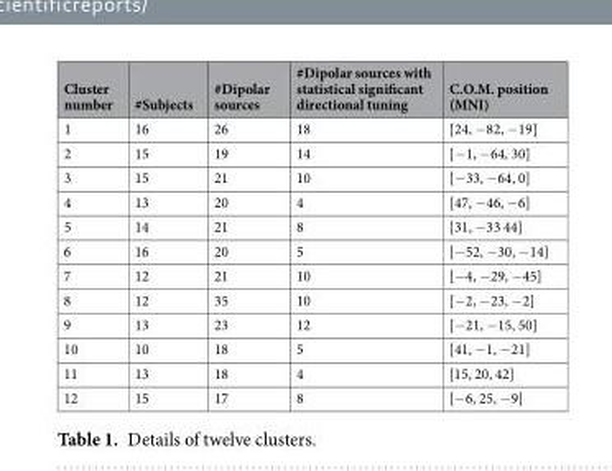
<table><thead><tr><td>Cluster number</td><td>#Subjects</td><td>#Dipolar sources</td><td>#Dipolar sources with statistical significant directional tuning</td><td>C.O.M. position (MNI)</td></tr></thead><tbody><tr><td>1</td><td>16</td><td>26</td><td>18</td><td>[24, −82, −19]</td></tr><tr><td>2</td><td>15</td><td>19</td><td>14</td><td>[−1, −64, 30]</td></tr><tr><td>3</td><td>15</td><td>21</td><td>10</td><td>[−33, −64, 0]</td></tr><tr><td>4</td><td>13</td><td>20</td><td>4</td><td>[47, −46, −6]</td></tr><tr><td>5</td><td>14</td><td>21</td><td>8</td><td>[31, −33 44]</td></tr><tr><td>6</td><td>16</td><td>20</td><td>5</td><td>[−52, −30, −14]</td></tr><tr><td>7</td><td>12</td><td>21</td><td>10</td><td>[−4, −29, −45]</td></tr><tr><td>8</td><td>12</td><td>35</td><td>10</td><td>[−2, −23, −2]</td></tr><tr><td>9</td><td>13</td><td>23</td><td>12</td><td>[−21, −15, 50]</td></tr><tr><td>10</td><td>10</td><td>18</td><td>5</td><td>[41, −1, −21]</td></tr><tr><td>11</td><td>13</td><td>18</td><td>4</td><td>[15, 20, 42]</td></tr><tr><td>12</td><td>15</td><td>17</td><td>8</td><td>[−6, 25, −9]</td></tr></tbody></table>